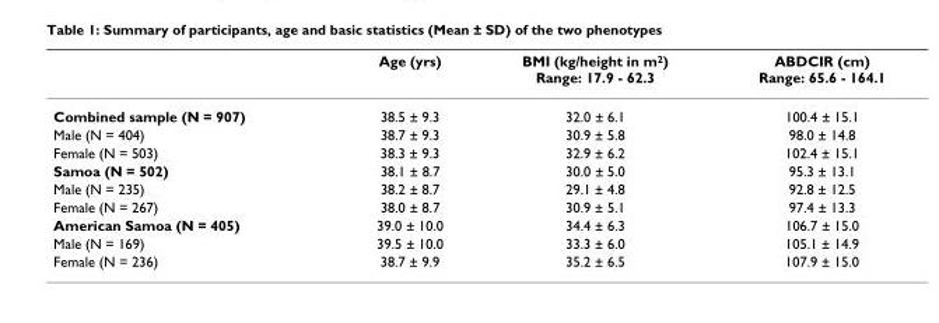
<table><thead><tr><td></td><td>Age (yrs)</td><td>BMI (kg/height in m<sup>2</sup>) Range: 17.9 - 62.3</td><td>ABDCIR (cm) Range: 65.6 - 164.1</td></tr></thead><tbody><tr><td>Combined sample (N = 907)</td><td>38.5 ± 9.3</td><td>32.0 ± 6.1</td><td>100.4 ± 15.1</td></tr><tr><td>Male (N = 404)</td><td>38.7 ± 9.3</td><td>30.9 ± 5.8</td><td>98.0 ± 14.8</td></tr><tr><td>Female (N = 503)</td><td>38.3 ± 9.3</td><td>32.9 ± 6.2</td><td>102.4 ± 15.1</td></tr><tr><td>Samoa (N = 502)</td><td>38.1 ± 8.7</td><td>30.0 ± 5.0</td><td>95.3 ± 13.1</td></tr><tr><td>Male (N = 235)</td><td>38.2 ± 8.7</td><td>29.1 ± 4.8</td><td>92.8 ± 12.5</td></tr><tr><td>Female (N = 267)</td><td>38.0 ± 8.7</td><td>30.9 ± 5.1</td><td>97.4 ± 13.3</td></tr><tr><td>American Samoa (N = 405)</td><td>39.0 ± 10.0</td><td>34.4 ± 6.3</td><td>106.7 ± 15.0</td></tr><tr><td>Male (N = 169)</td><td>39.5 ± 10.0</td><td>33.3 ± 6.0</td><td>105.1 ± 14.9</td></tr><tr><td>Female (N = 236)</td><td>38.7 ± 9.9</td><td>35.2 ± 6.5</td><td>107.9 ± 15.0</td></tr></tbody></table>